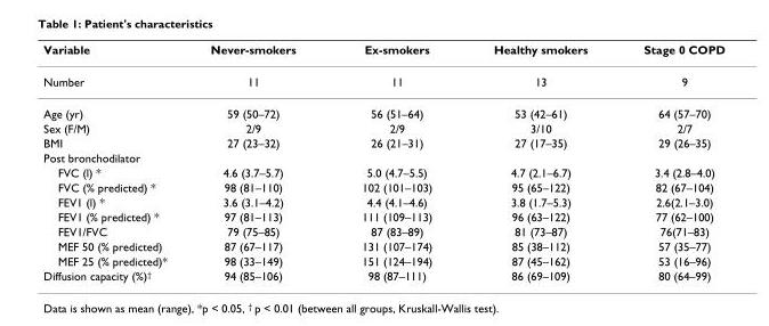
<table><thead><tr><td>Variable</td><td>Never-smokers</td><td>Ex-smokers</td><td>Healthy smokers</td><td>Stage 0 COPD</td></tr></thead><tbody><tr><td>Number</td><td>11</td><td>11</td><td>13</td><td>9</td></tr><tr><td>Age (yr)</td><td>59 (50–72)</td><td>56 (51–64)</td><td>53 (42–61)</td><td>64 (57–70)</td></tr><tr><td>Sex (F/M)</td><td>2/9</td><td>2/9</td><td>3/10</td><td>2/7</td></tr><tr><td>BMI</td><td>27 (23–32)</td><td>26 (21–31)</td><td>27 (17–35)</td><td>29 (26–35)</td></tr><tr><td colspan="5">Post bronchodilator</td></tr><tr><td>FVC (l) *</td><td>4.6 (3.7–5.7)</td><td>5.0 (4.7–5.5)</td><td>4.7 (2.1–6.7)</td><td>3.4 (2.8–4.0)</td></tr><tr><td>FVC (% predicted) *</td><td>98 (81–110)</td><td>102 (101–103)</td><td>95 (65–122)</td><td>82 (67–104)</td></tr><tr><td>FEV1 (l) *</td><td>3.6 (3.1–4.2)</td><td>4.4 (4.1–4.6)</td><td>3.8 (1.7–5.3)</td><td>2.6(2.1–3.0)</td></tr><tr><td>FEV1 (% predicted) *</td><td>97 (81–113)</td><td>111 (109–113)</td><td>96 (63–122)</td><td>77 (62–100)</td></tr><tr><td>FEV1/FVC</td><td>79 (75–85)</td><td>87 (83–89)</td><td>81 (73–87)</td><td>76(71–83)</td></tr><tr><td>MEF 50 (% predicted)</td><td>87 (67–117)</td><td>131 (107–174)</td><td>85 (38–112)</td><td>57 (35–77)</td></tr><tr><td>MEF 25 (% predicted)*</td><td>98 (33–149)</td><td>151 (124–194)</td><td>87 (45–162)</td><td>53 (16–96)</td></tr><tr><td>Diffusion capacity (%)<sup>†</sup></td><td>94 (85–106)</td><td>98 (87–111)</td><td>86 (69–109)</td><td>80 (64–99)</td></tr></tbody></table>